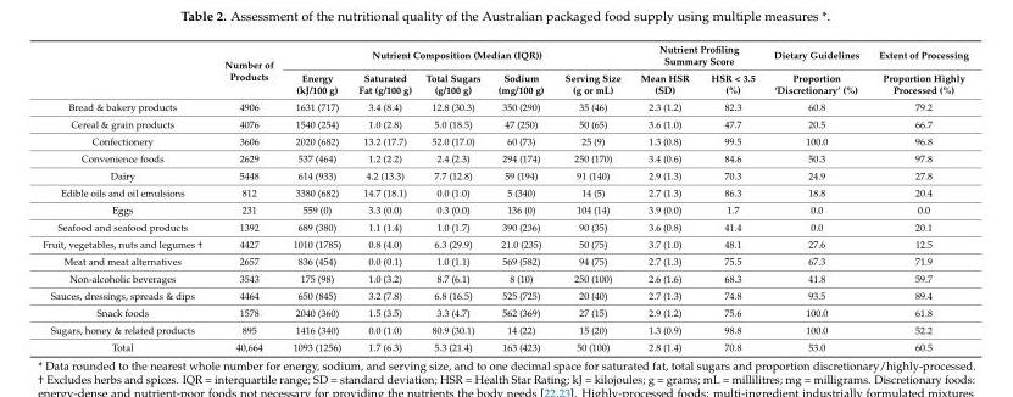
<table><thead><tr><td rowspan="2"></td><td rowspan="2">Number of Products</td><td colspan="5">Nutrient Composition (Median (IQR))</td><td colspan="2">Nutrient Profiling Summary Score</td><td rowspan="2">Dietary Guidelines Proportion ‘Discretionary’ (%)</td><td rowspan="2">Extent of Processing Proportion Highly Processed (%)</td></tr><tr><td>Energy (kJ/100 g)</td><td>Saturated Fat (g/100 g)</td><td>Total Sugars (g/100 g)</td><td>Sodium (mg/100 g)</td><td>Serving Size (g or mL)</td><td>Mean HSR (SD)</td><td>HSR &lt; 3.5 (%)</td></tr></thead><tbody><tr><td>Bread &amp; bakery products</td><td>4906</td><td>1631 (717)</td><td>3.4 (8.4)</td><td>12.8 (30.3)</td><td>350 (290)</td><td>35 (46)</td><td>2.3 (1.2)</td><td>82.3</td><td>60.8</td><td>79.2</td></tr><tr><td>Cereal &amp; grain products</td><td>4076</td><td>1540 (254)</td><td>1.0 (2.8)</td><td>5.0 (18.5)</td><td>47 (250)</td><td>50 (65)</td><td>3.6 (1.0)</td><td>47.7</td><td>20.5</td><td>66.7</td></tr><tr><td>Confectionery</td><td>3606</td><td>2020 (682)</td><td>13.2 (17.7)</td><td>52.0 (17.0)</td><td>60 (73)</td><td>25 (9)</td><td>1.3 (0.8)</td><td>99.5</td><td>100.0</td><td>96.8</td></tr><tr><td>Convenience foods</td><td>2629</td><td>537 (464)</td><td>1.2 (2.2)</td><td>2.4 (2.3)</td><td>294 (174)</td><td>250 (170)</td><td>3.4 (0.6)</td><td>84.6</td><td>50.3</td><td>97.8</td></tr><tr><td>Dairy</td><td>5448</td><td>614 (933)</td><td>4.2 (13.3)</td><td>7.7 (12.8)</td><td>59 (194)</td><td>91 (140)</td><td>2.9 (1.3)</td><td>70.3</td><td>24.9</td><td>27.8</td></tr><tr><td>Edible oils and oil emulsions</td><td>812</td><td>3380 (682)</td><td>14.7 (18.1)</td><td>0.0 (1.0)</td><td>5 (340)</td><td>14 (5)</td><td>2.7 (1.3)</td><td>86.3</td><td>18.8</td><td>20.4</td></tr><tr><td>Eggs</td><td>231</td><td>559 (0)</td><td>3.3 (0.0)</td><td>0.3 (0.0)</td><td>136 (0)</td><td>104 (14)</td><td>3.9 (0.0)</td><td>1.7</td><td>0.0</td><td>0.0</td></tr><tr><td>Seafood and seafood products</td><td>1392</td><td>689 (380)</td><td>1.1 (1.4)</td><td>1.0 (1.7)</td><td>390 (236)</td><td>90 (35)</td><td>3.6 (0.8)</td><td>41.4</td><td>0.0</td><td>20.1</td></tr><tr><td>Fruit, vegetables, nuts and legumes †</td><td>4427</td><td>1010 (1785)</td><td>0.8 (4.0)</td><td>6.3 (29.9)</td><td>21.0 (235)</td><td>50 (75)</td><td>3.7 (1.0)</td><td>48.1</td><td>27.6</td><td>12.5</td></tr><tr><td>Meat and meat alternatives</td><td>2657</td><td>836 (454)</td><td>0.0 (0.1)</td><td>1.0 (1.1)</td><td>569 (582)</td><td>94 (75)</td><td>2.7 (1.3)</td><td>75.5</td><td>67.3</td><td>71.9</td></tr><tr><td>Non-alcoholic beverages</td><td>3543</td><td>175 (98)</td><td>1.0 (3.2)</td><td>8.7 (6.1)</td><td>8 (10)</td><td>250 (100)</td><td>2.6 (1.6)</td><td>68.3</td><td>41.8</td><td>59.7</td></tr><tr><td>Sauces, dressings, spreads &amp; dips</td><td>4464</td><td>650 (845)</td><td>3.2 (7.8)</td><td>6.8 (16.5)</td><td>525 (725)</td><td>20 (40)</td><td>2.7 (1.3)</td><td>74.8</td><td>93.5</td><td>89.4</td></tr><tr><td>Snack foods</td><td>1578</td><td>2040 (360)</td><td>1.5 (3.5)</td><td>3.3 (4.7)</td><td>562 (369)</td><td>27 (15)</td><td>2.9 (1.2)</td><td>75.6</td><td>100.0</td><td>61.8</td></tr><tr><td>Sugars, honey &amp; related products</td><td>895</td><td>1416 (340)</td><td>0.0 (1.0)</td><td>80.9 (30.1)</td><td>14 (22)</td><td>15 (20)</td><td>1.3 (0.9)</td><td>98.8</td><td>100.0</td><td>52.2</td></tr><tr><td>Total</td><td>40,664</td><td>1093 (1256)</td><td>1.7 (6.3)</td><td>5.3 (21.4)</td><td>163 (423)</td><td>50 (100)</td><td>2.8 (1.4)</td><td>70.8</td><td>53.0</td><td>60.5</td></tr></tbody></table>